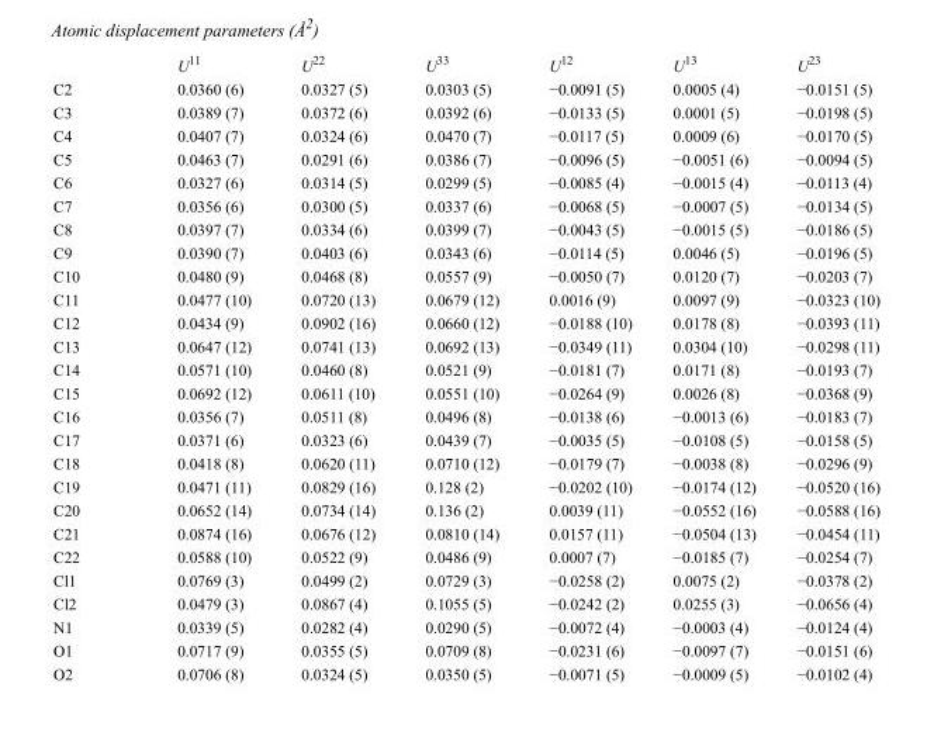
<table><thead><tr><td></td><td>U<sup>11</sup></td><td>U<sup>22</sup></td><td>U<sup>33</sup></td><td>U<sup>12</sup></td><td>U<sup>13</sup></td><td>U<sup>23</sup></td></tr></thead><tbody><tr><td>C2</td><td>0.0360 (6)</td><td>0.0327 (5)</td><td>0.0303 (5)</td><td>−0.0091 (5)</td><td>0.0005 (4)</td><td>−0.0151 (5)</td></tr><tr><td>C3</td><td>0.0389 (7)</td><td>0.0372 (6)</td><td>0.0392 (6)</td><td>−0.0133 (5)</td><td>0.0001 (5)</td><td>−0.0198 (5)</td></tr><tr><td>C4</td><td>0.0407 (7)</td><td>0.0324 (6)</td><td>0.0470 (7)</td><td>−0.0117 (5)</td><td>0.0009 (6)</td><td>−0.0170 (5)</td></tr><tr><td>C5</td><td>0.0463 (7)</td><td>0.0291 (6)</td><td>0.0386 (7)</td><td>−0.0096 (5)</td><td>−0.0051 (6)</td><td>−0.0094 (5)</td></tr><tr><td>C6</td><td>0.0327 (6)</td><td>0.0314 (5)</td><td>0.0299 (5)</td><td>−0.0085 (4)</td><td>−0.0015 (4)</td><td>−0.0113 (4)</td></tr><tr><td>C7</td><td>0.0356 (6)</td><td>0.0300 (5)</td><td>0.0337 (6)</td><td>−0.0068 (5)</td><td>−0.0007 (5)</td><td>−0.0134 (5)</td></tr><tr><td>C8</td><td>0.0397 (7)</td><td>0.0334 (6)</td><td>0.0399 (7)</td><td>−0.0043 (5)</td><td>−0.0015 (5)</td><td>−0.0186 (5)</td></tr><tr><td>C9</td><td>0.0390 (7)</td><td>0.0403 (6)</td><td>0.0343 (6)</td><td>−0.0114 (5)</td><td>0.0046 (5)</td><td>−0.0196 (5)</td></tr><tr><td>C10</td><td>0.0480 (9)</td><td>0.0468 (8)</td><td>0.0557 (9)</td><td>−0.0050 (7)</td><td>0.0120 (7)</td><td>−0.0203 (7)</td></tr><tr><td>C11</td><td>0.0477 (10)</td><td>0.0720 (13)</td><td>0.0679 (12)</td><td>0.0016 (9)</td><td>0.0097 (9)</td><td>−0.0323 (10)</td></tr><tr><td>C12</td><td>0.0434 (9)</td><td>0.0902 (16)</td><td>0.0660 (12)</td><td>−0.0188 (10)</td><td>0.0178 (8)</td><td>−0.0393 (11)</td></tr><tr><td>C13</td><td>0.0647 (12)</td><td>0.0741 (13)</td><td>0.0692 (13)</td><td>−0.0349 (11)</td><td>0.0304 (10)</td><td>−0.0298 (11)</td></tr><tr><td>C14</td><td>0.0571 (10)</td><td>0.0460 (8)</td><td>0.0521 (9)</td><td>−0.0181 (7)</td><td>0.0171 (8)</td><td>−0.0193 (7)</td></tr><tr><td>C15</td><td>0.0692 (12)</td><td>0.0611 (10)</td><td>0.0551 (10)</td><td>−0.0264 (9)</td><td>0.0026 (8)</td><td>−0.0368 (9)</td></tr><tr><td>C16</td><td>0.0356 (7)</td><td>0.0511 (8)</td><td>0.0496 (8)</td><td>−0.0138 (6)</td><td>−0.0013 (6)</td><td>−0.0183 (7)</td></tr><tr><td>C17</td><td>0.0371 (6)</td><td>0.0323 (6)</td><td>0.0439 (7)</td><td>−0.0035 (5)</td><td>−0.0108 (5)</td><td>−0.0158 (5)</td></tr><tr><td>C18</td><td>0.0418 (8)</td><td>0.0620 (11)</td><td>0.0710 (12)</td><td>−0.0179 (7)</td><td>−0.0038 (8)</td><td>−0.0296 (9)</td></tr><tr><td>C19</td><td>0.0471 (11)</td><td>0.0829 (16)</td><td>0.128 (2)</td><td>−0.0202 (10)</td><td>−0.0174 (12)</td><td>−0.0520 (16)</td></tr><tr><td>C20</td><td>0.0652 (14)</td><td>0.0734 (14)</td><td>0.136 (2)</td><td>0.0039 (11)</td><td>−0.0552 (16)</td><td>−0.0588 (16)</td></tr><tr><td>C21</td><td>0.0874 (16)</td><td>0.0676 (12)</td><td>0.0810 (14)</td><td>0.0157 (11)</td><td>−0.0504 (13)</td><td>−0.0454 (11)</td></tr><tr><td>C22</td><td>0.0588 (10)</td><td>0.0522 (9)</td><td>0.0486 (9)</td><td>0.0007 (7)</td><td>−0.0185 (7)</td><td>−0.0254 (7)</td></tr><tr><td>Cl1</td><td>0.0769 (3)</td><td>0.0499 (2)</td><td>0.0729 (3)</td><td>−0.0258 (2)</td><td>0.0075 (2)</td><td>−0.0378 (2)</td></tr><tr><td>Cl2</td><td>0.0479 (3)</td><td>0.0867 (4)</td><td>0.1055 (5)</td><td>−0.0242 (2)</td><td>0.0255 (3)</td><td>−0.0656 (4)</td></tr><tr><td>N1</td><td>0.0339 (5)</td><td>0.0282 (4)</td><td>0.0290 (5)</td><td>−0.0072 (4)</td><td>−0.0003 (4)</td><td>−0.0124 (4)</td></tr><tr><td>O1</td><td>0.0717 (9)</td><td>0.0355 (5)</td><td>0.0709 (8)</td><td>−0.0231 (6)</td><td>−0.0097 (7)</td><td>−0.0151 (6)</td></tr><tr><td>O2</td><td>0.0706 (8)</td><td>0.0324 (5)</td><td>0.0350 (5)</td><td>−0.0071 (5)</td><td>−0.0009 (5)</td><td>−0.0102 (4)</td></tr></tbody></table>